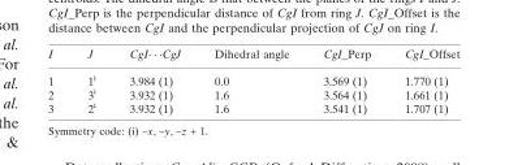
<table><thead><tr><td>I</td><td>J</td><td>CgI� � �CgJ</td><td>Dihedral angle</td><td>CgI_Perp</td><td>CgI_Offset</td></tr></thead><tbody><tr><td>1</td><td>1<sup>i</sup></td><td>3.984 (1)</td><td>0.0</td><td>3.569 (1)</td><td>1.770 (1)</td></tr><tr><td>2</td><td>3<sup>i</sup></td><td>3.932 (1)</td><td>1.6</td><td>3.564 (1)</td><td>1.661 (1)</td></tr><tr><td>3</td><td>2<sup>i</sup></td><td>3.932 (1)</td><td>1.6</td><td>3.541 (1)</td><td>1.707 (1)</td></tr></tbody></table>